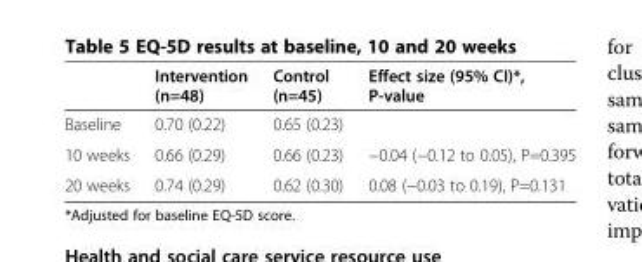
<table><thead><tr><td></td><td>Intervention (n=48)</td><td>Control (n=45)</td><td>Effect size (95% CI)*, P-value</td></tr></thead><tbody><tr><td>Baseline</td><td>0.70 (0.22)</td><td>0.65 (0.23)</td><td></td></tr><tr><td>10 weeks</td><td>0.66 (0.29)</td><td>0.66 (0.23)</td><td>−0.04 (−0.12 to 0.05), P=0.395</td></tr><tr><td>20 weeks</td><td>0.74 (0.29)</td><td>0.62 (0.30)</td><td>0.08 (−0.03 to 0.19), P=0.131</td></tr></tbody></table>